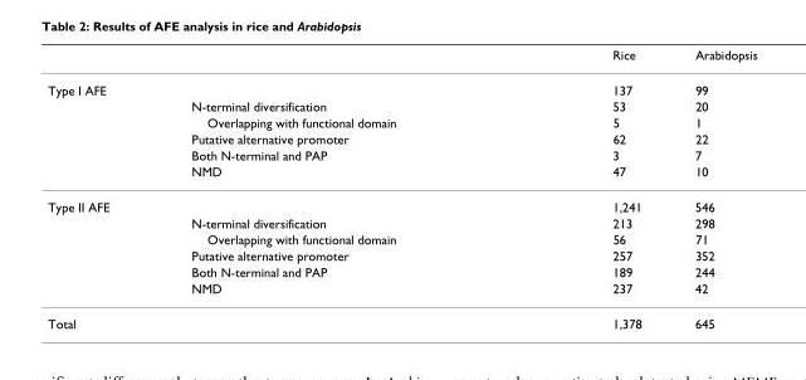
<table><thead><tr><td></td><td></td><td>Rice</td><td>Arabidopsis</td></tr></thead><tbody><tr><td rowspan="6">Type I AFE</td><td></td><td>137</td><td>99</td></tr><tr><td>N-terminal diversification</td><td>53</td><td>20</td></tr><tr><td>Overlapping with functional domain</td><td>5</td><td>1</td></tr><tr><td>Putative alternative promoter</td><td>62</td><td>22</td></tr><tr><td>Both N-terminal and PAP</td><td>3</td><td>7</td></tr><tr><td>NMD</td><td>47</td><td>10</td></tr><tr><td rowspan="6">Type II AFE</td><td></td><td>1,241</td><td>546</td></tr><tr><td>N-terminal diversification</td><td>213</td><td>298</td></tr><tr><td>Overlapping with functional domain</td><td>56</td><td>71</td></tr><tr><td>Putative alternative promoter</td><td>257</td><td>352</td></tr><tr><td>Both N-terminal and PAP</td><td>189</td><td>244</td></tr><tr><td>NMD</td><td>237</td><td>42</td></tr><tr><td>Total</td><td></td><td>1,378</td><td>645</td></tr></tbody></table>